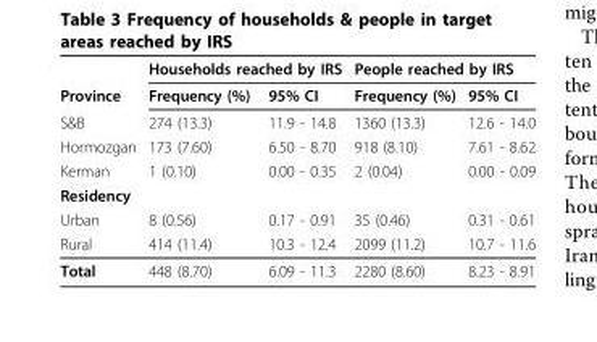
<table><thead><tr><td rowspan="8">Province S&amp;B Hormozgan Kerman Residency Urban Rural</td><td colspan="2">Households reached by IRS</td><td colspan="2">People reached by IRS</td></tr><tr><td rowspan="7">Frequency (%) 274 (13.3) 173 (7.60) 1 (0.10) 8 (0.56) 414 (11.4)</td><td rowspan="7">95% CI 11.9 - 14.8 6.50 - 8.70 0.00 - 0.35 0.17 - 0.91 10.3 - 12.4</td><td rowspan="7">Frequency (%) 1360 (13.3) 918 (8.10) 2 (0.04) 35 (0.46) 2099 (11.2)</td><td rowspan="7">95% CI 12.6 - 14.0 7.61 - 8.62 0.00 - 0.09 0.31 - 0.61 10.7 - 11.6</td></tr><tr></tr><tr></tr><tr></tr><tr></tr><tr></tr><tr></tr></thead><tbody><tr><td>Total</td><td>448 (8.70)</td><td>6.09 - 11.3</td><td>2280 (8.60)</td><td>8.23 - 8.91</td></tr></tbody></table>